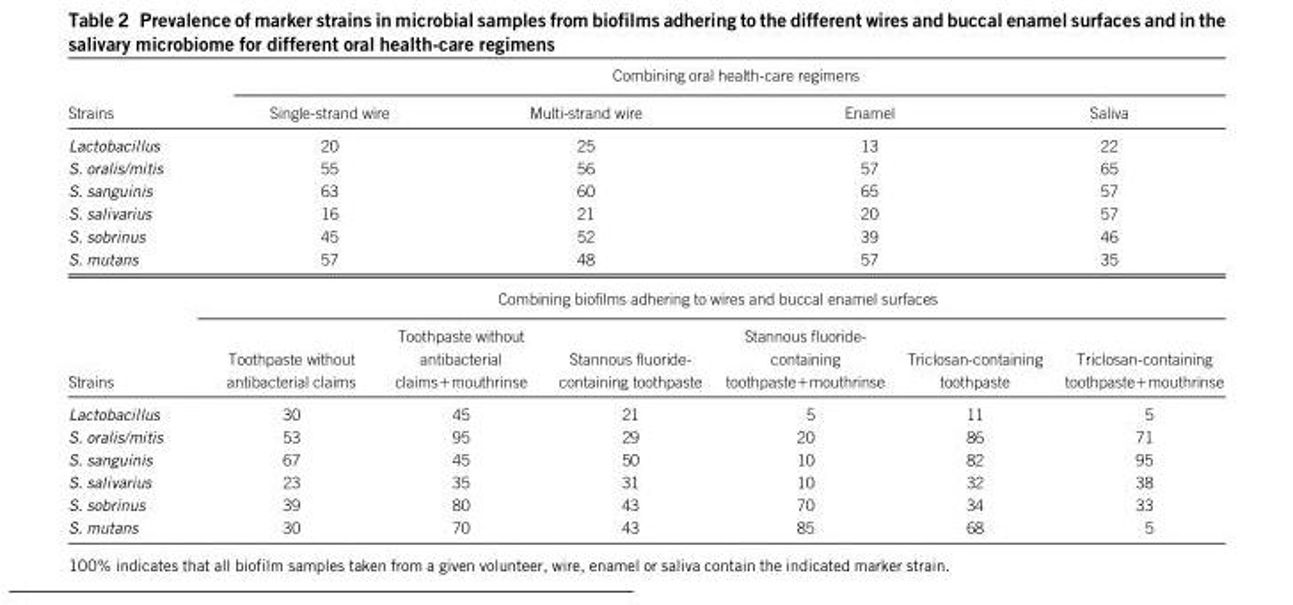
<table><thead><tr><td rowspan="2">Strains</td><td colspan="6">Combining oral health-care regimens</td></tr><tr><td>Single-strand wire</td><td colspan="2">Multi-strand wire</td><td colspan="2">Enamel</td><td>Saliva</td></tr></thead><tbody><tr><td>Lactobacillus</td><td>20</td><td colspan="2">25</td><td colspan="2">13</td><td>22</td></tr><tr><td>S. oralis/mitis</td><td>55</td><td colspan="2">56</td><td colspan="2">57</td><td>65</td></tr><tr><td>S. sanguinis</td><td>63</td><td colspan="2">60</td><td colspan="2">65</td><td>57</td></tr><tr><td>S. salivarius</td><td>16</td><td colspan="2">21</td><td colspan="2">20</td><td>57</td></tr><tr><td>S. sobrinus</td><td>45</td><td colspan="2">52</td><td colspan="2">39</td><td>46</td></tr><tr><td rowspan="2">S. mutans</td><td>57</td><td colspan="2">48</td><td colspan="2">57</td><td>35</td></tr><tr><td colspan="6">Combining biofilms adhering to wires and buccal enamel surfaces</td></tr><tr><td>Strains</td><td>Toothpaste without antibacterial claims</td><td>Toothpaste without antibacterial claims+mouthrinse</td><td>Stannous fluoride- containing toothpaste</td><td>Stannous fluoride- containing toothpaste+mouthrinse</td><td>Triclosan-containing toothpaste</td><td>Triclosan-containing toothpaste+mouthrinse</td></tr><tr><td>Lactobacillus</td><td>30</td><td>45</td><td>21</td><td>5</td><td>11</td><td>5</td></tr><tr><td>S. oralis/mitis</td><td>53</td><td>95</td><td>29</td><td>20</td><td>86</td><td>71</td></tr><tr><td>S. sanguinis</td><td>67</td><td>45</td><td>50</td><td>10</td><td>82</td><td>95</td></tr><tr><td>S. salivarius</td><td>23</td><td>35</td><td>31</td><td>10</td><td>32</td><td>38</td></tr><tr><td>S. sobrinus</td><td>39</td><td>80</td><td>43</td><td>70</td><td>34</td><td>33</td></tr><tr><td>S. mutans</td><td>30</td><td>70</td><td>43</td><td>85</td><td>68</td><td>5</td></tr></tbody></table>